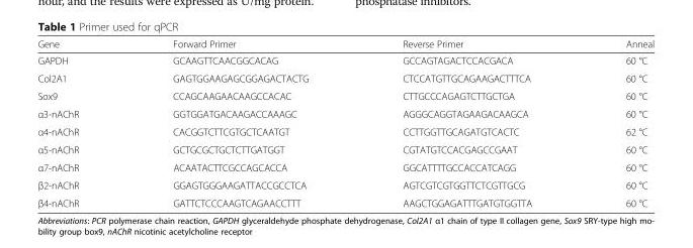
<table><thead><tr><td>Gene</td><td>Forward Primer</td><td>Reverse Primer</td><td>Anneal</td></tr></thead><tbody><tr><td>GAPDH</td><td>GCAAGTTCAACGGCACAG</td><td>GCCAGTAGACTCCACGACA</td><td>60 °C</td></tr><tr><td>Col2A1</td><td>GAGTGGAAGAGCGGAGACTACTG</td><td>CTCCATGTTGCAGAAGACTTTCA</td><td>60 °C</td></tr><tr><td>Sox9</td><td>CCAGCAAGAACAAGCCACAC</td><td>CTTGCCCAGAGTCTTGCTGA</td><td>60 °C</td></tr><tr><td>α3-nAChR</td><td>GGTGGATGACAAGACCAAAGC</td><td>AGGGCAGGTAGAAGACAAGCA</td><td>60 °C</td></tr><tr><td>α4-nAChR</td><td>CACGGTCTTCGTGCTCAATGT</td><td>CCTTGGTTGCAGATGTCACTC</td><td>62 °C</td></tr><tr><td>α5-nAChR</td><td>GCTGCGCTGCTCTTGATGGT</td><td>CGTATGTCCACGAGCCGAAT</td><td>60 °C</td></tr><tr><td>α7-nAChR</td><td>ACAATACTTCGCCAGCACCA</td><td>GGCATTTTGCCACCATCAGG</td><td>60 °C</td></tr><tr><td>β2-nAChR</td><td>GGAGTGGGAAGATTACCGCCTCA</td><td>AGTCGTCGTGGTTCTCGTTGCG</td><td>60 °C</td></tr><tr><td>β4-nAChR</td><td>GATTCTCCCAAGTCAGAACCTTT</td><td>AAGCTGGAGATTTGATGTGGTTA</td><td>60 °C</td></tr></tbody></table>